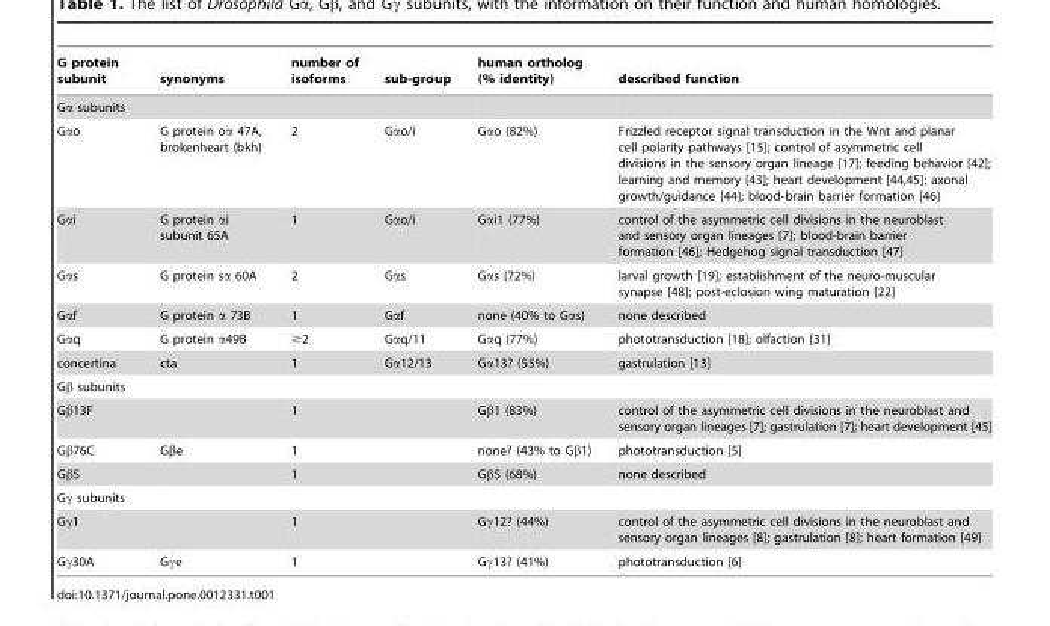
<table><thead><tr><td>G protein subunit</td><td>synonyms</td><td>number of isoforms</td><td>sub-group</td><td>human ortholog (% identity)</td><td>described function</td></tr></thead><tbody><tr><td colspan="6">Gα subunits</td></tr><tr><td>Gαo</td><td>G protein oα 47A, brokenheart (bkh)</td><td>2</td><td>Gαo/i</td><td>Gαo (82%)</td><td>Frizzled receptor signal transduction in the Wnt and planar cell polarity pathways [15]; control of asymmetric cell divisions in the sensory organ lineage [17]; feeding behavior [42]; learning and memory [43]; heart development [44,45]; axonal growth/guidance [44]; blood-brain barrier formation [46]</td></tr><tr><td>Gαi</td><td>G protein αi subunit 65A</td><td>1</td><td>Gαo/i</td><td>Gαi1 (77%)</td><td>control of the asymmetric cell divisions in the neuroblast and sensory organ lineages [7]; blood-brain barrier formation [46]; Hedgehog signal transduction [47]</td></tr><tr><td>Gαs</td><td>G protein sα 60A</td><td>2</td><td>Gαs</td><td>Gαs (72%)</td><td>larval growth [19]; establishment of the neuro-muscular synapse [48]; post-eclosion wing maturation [22]</td></tr><tr><td>Gαf</td><td>G protein α 73B</td><td>1</td><td>Gαf</td><td>none (40% to Gαs)</td><td>none described</td></tr><tr><td>Gαq</td><td>G protein α49B</td><td>≥2</td><td>Gαq/11</td><td>Gαq (77%)</td><td>phototransduction [18]; olfaction [31]</td></tr><tr><td>concertina</td><td>cta</td><td>1</td><td>Gα12/13</td><td>Gα13? (55%)</td><td>gastrulation [13]</td></tr><tr><td colspan="6">Gβ subunits</td></tr><tr><td>Gβ13F</td><td></td><td>1</td><td></td><td>Gβ1 (83%)</td><td>control of the asymmetric cell divisions in the neuroblast and sensory organ lineages [7]; gastrulation [7]; heart development [45]</td></tr><tr><td>Gβ76C</td><td>Gβe</td><td>1</td><td></td><td>none? (43% to Gβ1)</td><td>phototransduction [5]</td></tr><tr><td>Gβ5</td><td></td><td>1</td><td></td><td>Gβ5 (68%)</td><td>none described</td></tr><tr><td colspan="6">Gγ subunits</td></tr><tr><td>Gγ1</td><td></td><td>1</td><td></td><td>Gγ12? (44%)</td><td>control of the asymmetric cell divisions in the neuroblast and sensory organ lineages [8]; gastrulation [8]; heart formation [49]</td></tr><tr><td>Gγ30A</td><td>Gγe</td><td>1</td><td></td><td>Gγ13? (41%)</td><td>phototransduction [6]</td></tr></tbody></table>